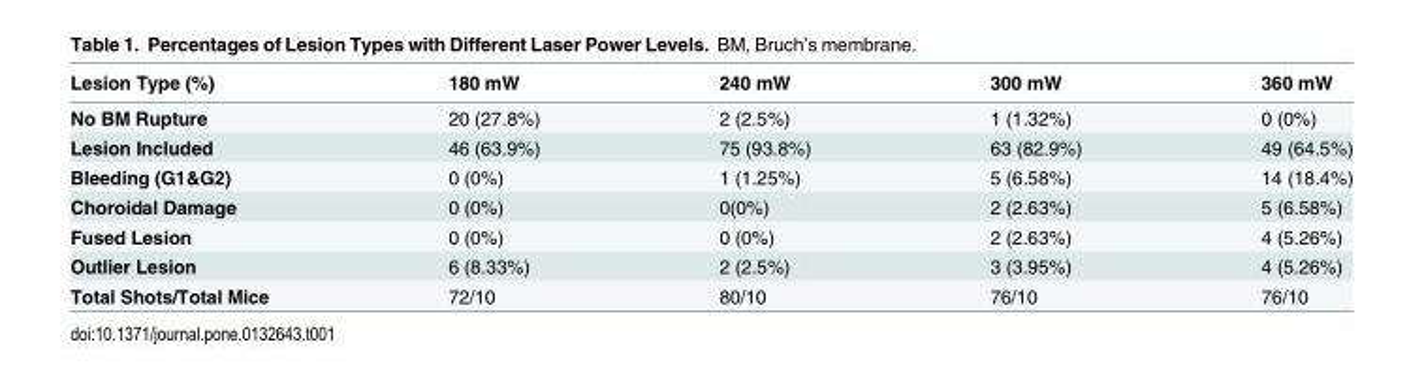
<table><thead><tr><td>Lesion Type (%)</td><td>180 mW</td><td>240 mW</td><td>300 mW</td><td>360 mW</td></tr></thead><tbody><tr><td>No BM Rupture</td><td>20 (27.8%)</td><td>2 (2.5%)</td><td>1 (1.32%)</td><td>0 (0%)</td></tr><tr><td>Lesion Included</td><td>46 (63.9%)</td><td>75 (93.8%)</td><td>63 (82.9%)</td><td>49 (64.5%)</td></tr><tr><td>Bleeding (G1&amp;G2)</td><td>0 (0%)</td><td>1 (1.25%)</td><td>5 (6.58%)</td><td>14 (18.4%)</td></tr><tr><td>Choroidal Damage</td><td>0 (0%)</td><td>0(0%)</td><td>2 (2.63%)</td><td>5 (6.58%)</td></tr><tr><td>Fused Lesion</td><td>0 (0%)</td><td>0 (0%)</td><td>2 (2.63%)</td><td>4 (5.26%)</td></tr><tr><td>Outlier Lesion</td><td>6 (8.33%)</td><td>2 (2.5%)</td><td>3 (3.95%)</td><td>4 (5.26%)</td></tr><tr><td>Total Shots/Total Mice</td><td>72/10</td><td>80/10</td><td>76/10</td><td>76/10</td></tr></tbody></table>